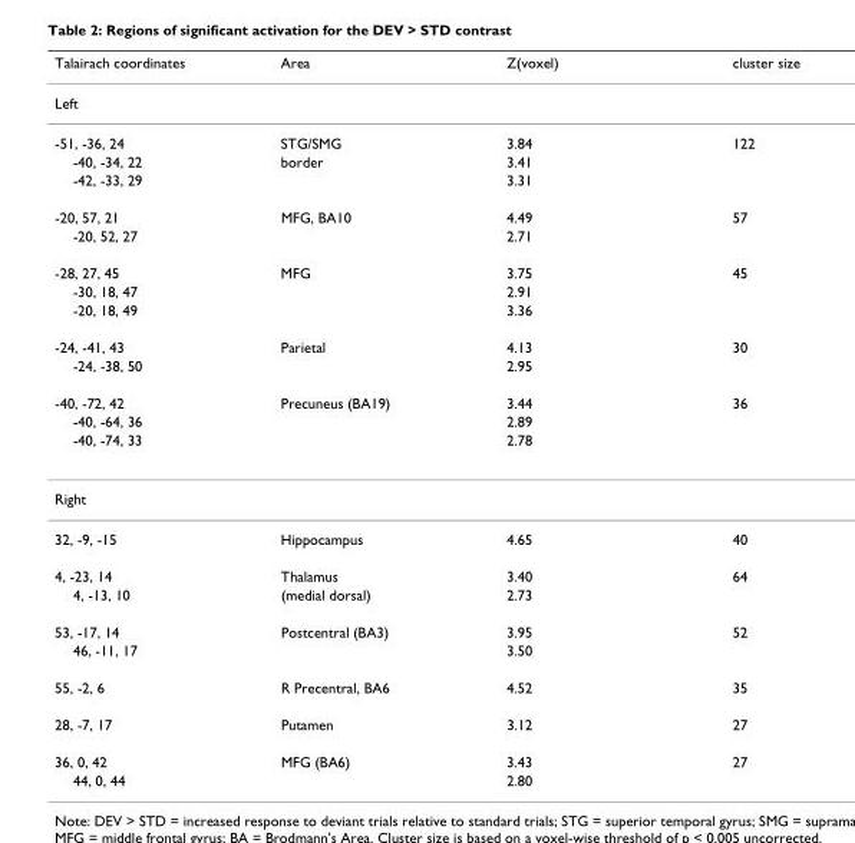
<table><thead><tr><td>Talairach coordinates</td><td>Area</td><td>Z(voxel)</td><td>cluster size</td></tr></thead><tbody><tr><td colspan="4">Left</td></tr><tr><td>-51, -36, 24</td><td>STG/SMG</td><td>3.84</td><td>122</td></tr><tr><td>-40, -34, 22</td><td>border</td><td>3.41</td><td></td></tr><tr><td>-42, -33, 29</td><td></td><td>3.31</td><td></td></tr><tr><td>-20, 57, 21</td><td>MFG, BA10</td><td>4.49</td><td>57</td></tr><tr><td>-20, 52, 27</td><td></td><td>2.71</td><td></td></tr><tr><td>-28, 27, 45</td><td>MFG</td><td>3.75</td><td>45</td></tr><tr><td>-30, 18, 47</td><td></td><td>2.91</td><td></td></tr><tr><td>-20, 18, 49</td><td></td><td>3.36</td><td></td></tr><tr><td>-24, -41, 43</td><td>Parietal</td><td>4.13</td><td>30</td></tr><tr><td>-24, -38, 50</td><td></td><td>2.95</td><td></td></tr><tr><td>-40, -72, 42</td><td>Precuneus (BA19)</td><td>3.44</td><td>36</td></tr><tr><td>-40, -64, 36</td><td></td><td>2.89</td><td></td></tr><tr><td>-40, -74, 33</td><td></td><td>2.78</td><td></td></tr><tr><td colspan="4">Right</td></tr><tr><td>32, -9, -15</td><td>Hippocampus</td><td>4.65</td><td>40</td></tr><tr><td>4, -23, 14</td><td>Thalamus</td><td>3.40</td><td>64</td></tr><tr><td>4, -13, 10</td><td>(medial dorsal)</td><td>2.73</td><td></td></tr><tr><td>53, -17, 14</td><td>Postcentral (BA3)</td><td>3.95</td><td>52</td></tr><tr><td>46, -11, 17</td><td></td><td>3.50</td><td></td></tr><tr><td>55, -2, 6</td><td>R Precentral, BA6</td><td>4.52</td><td>35</td></tr><tr><td>28, -7, 17</td><td>Putamen</td><td>3.12</td><td>27</td></tr><tr><td>36, 0, 42</td><td>MFG (BA6)</td><td>3.43</td><td>27</td></tr><tr><td>44, 0, 44</td><td></td><td>2.80</td><td></td></tr></tbody></table>